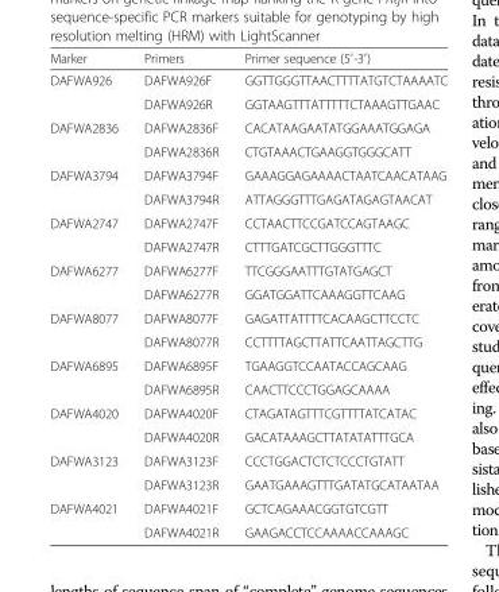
<table><thead><tr><td>Marker</td><td>Primers</td><td>Primer sequence (5′-3′)</td></tr></thead><tbody><tr><td rowspan="2">DAFWA926</td><td>DAFWA926F</td><td>GGTTGGGTTAACTTTTATGTCTAAAATC</td></tr><tr><td>DAFWA926R</td><td>GGTAAGTTTATTTTTCTAAAGTTGAAC</td></tr><tr><td rowspan="2">DAFWA2836</td><td>DAFWA2836F</td><td>CACATAAGAATATGGAAATGGAGA</td></tr><tr><td>DAFWA2836R</td><td>CTGTAAACTGAAGGTGGGCATT</td></tr><tr><td rowspan="2">DAFWA3794</td><td>DAFWA3794F</td><td>GAAAGGAGAAAACTAATCAACATAAG</td></tr><tr><td>DAFWA3794R</td><td>ATTAGGGTTTGAGATAGAGTAACAT</td></tr><tr><td rowspan="2">DAFWA2747</td><td>DAFWA2747F</td><td>CCTAACTTCCGATCCAGTAAGC</td></tr><tr><td>DAFWA2747R</td><td>CTTTGATCGCTTGGGTTTC</td></tr><tr><td rowspan="2">DAFWA6277</td><td>DAFWA6277F</td><td>TTCGGGAATTTGTATGAGCT</td></tr><tr><td>DAFWA6277R</td><td>GGATGGATTCAAAGGTTCAAG</td></tr><tr><td rowspan="2">DAFWA8077</td><td>DAFWA8077F</td><td>GAGATTATTTTCACAAGCTTCCTC</td></tr><tr><td>DAFWA8077R</td><td>CCTTTTAGCTTATTCAATTAGCTTG</td></tr><tr><td rowspan="2">DAFWA6895</td><td>DAFWA6895F</td><td>TGAAGGTCCAATACCAGCAAG</td></tr><tr><td>DAFWA6895R</td><td>CAACTTCCCTGGAGCAAAA</td></tr><tr><td rowspan="2">DAFWA4020</td><td>DAFWA4020F</td><td>CTAGATAGTTTCGTTTTATCATAC</td></tr><tr><td>DAFWA4020R</td><td>GACATAAAGCTTATATATTTGCA</td></tr><tr><td rowspan="2">DAFWA3123</td><td>DAFWA3123F</td><td>CCCTGGACTCTCTCCCTGTATT</td></tr><tr><td>DAFWA3123R</td><td>GAATGAAAGTTTGATATGCATAATAA</td></tr><tr><td rowspan="2">DAFWA4021</td><td>DAFWA4021F</td><td>GCTCAGAAACGGTGTCGTT</td></tr><tr><td>DAFWA4021R</td><td>GAAGACCTCCAAAACCAAAGC</td></tr></tbody></table>